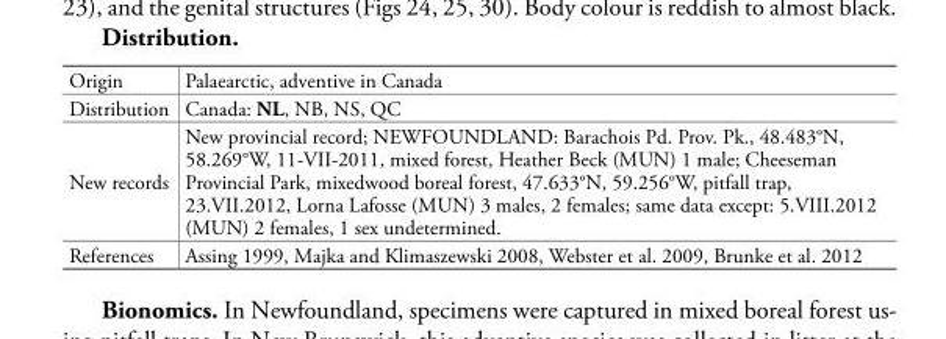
<table><tbody><tr><td>Origin</td><td>Palaearctic, adventive in Canada</td></tr><tr><td>Distribution</td><td>Canada: NL, NB, NS, QC</td></tr><tr><td>New records</td><td>New provincial record; NEWFOUNDLAND: Barachois Pd. Prov. Pk., 48.483°N, 58.269°W, 11-VII-2011, mixed forest, Heather Beck (MUN) 1 male; Cheeseman Provincial Park, mixedwood boreal forest, 47.633°N, 59.256°W, pitfall trap, 23.VII.2012, Lorna Lafosse (MUN) 3 males, 2 females; same data except: 5.VIII.2012 (MUN) 2 females, 1 sex undetermined.</td></tr><tr><td>References</td><td>Assing 1999, Majka and Klimaszewski 2008, Webster et al. 2009, Brunke et al. 2012</td></tr></tbody></table>